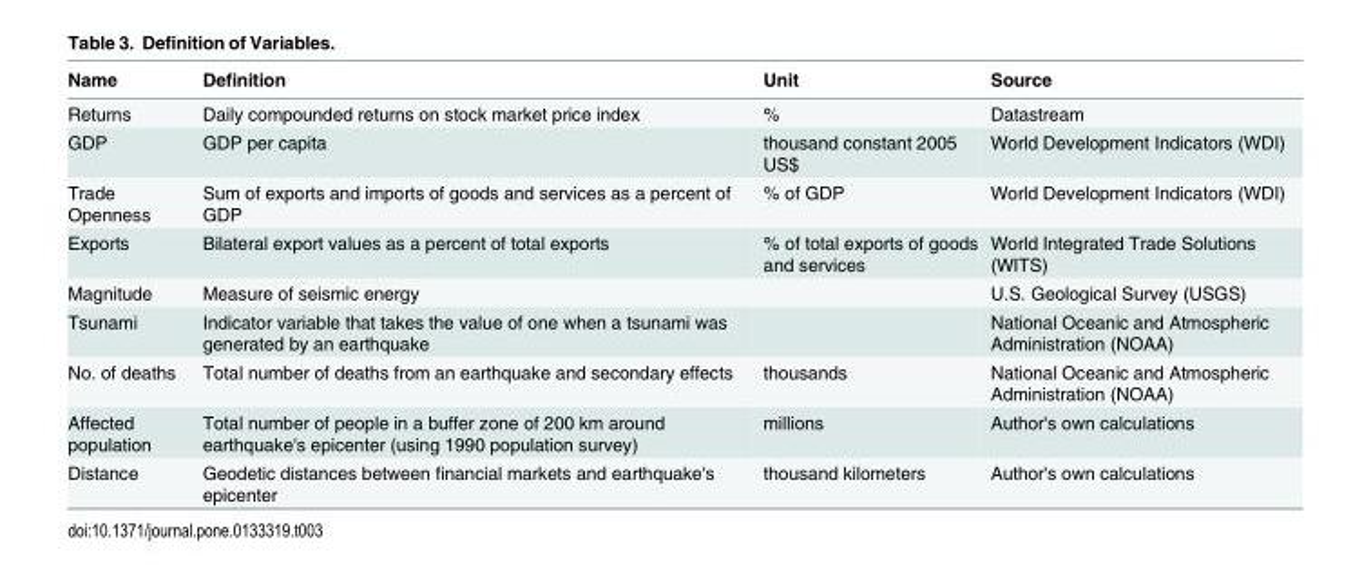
<table><thead><tr><td>Name</td><td>Definition</td><td>Unit</td><td>Source</td></tr></thead><tbody><tr><td>Returns</td><td>Daily compounded returns on stock market price index</td><td>%</td><td>Datastream</td></tr><tr><td>GDP</td><td>GDP per capita</td><td>thousand constant 2005 US$</td><td>World Development Indicators (WDI)</td></tr><tr><td>Trade Openness</td><td>Sum of exports and imports of goods and services as a percent of GDP</td><td>% of GDP</td><td>World Development Indicators (WDI)</td></tr><tr><td>Exports</td><td>Bilateral export values as a percent of total exports</td><td>% of total exports of goods and services</td><td>World Integrated Trade Solutions (WITS)</td></tr><tr><td>Magnitude</td><td>Measure of seismic energy</td><td></td><td>U.S. Geological Survey (USGS)</td></tr><tr><td>Tsunami</td><td>Indicator variable that takes the value of one when a tsunami was generated by an earthquake</td><td></td><td>National Oceanic and Atmospheric Administration (NOAA)</td></tr><tr><td>No. of deaths</td><td>Total number of deaths from an earthquake and secondary effects</td><td>thousands</td><td>National Oceanic and Atmospheric Administration (NOAA)</td></tr><tr><td>Affected population</td><td>Total number of people in a buffer zone of 200 km around earthquake&#x27;s epicenter (using 1990 population survey)</td><td>millions</td><td>Author&#x27;s own calculations</td></tr><tr><td>Distance</td><td>Geodetic distances between financial markets and earthquake&#x27;s epicenter</td><td>thousand kilometers</td><td>Author&#x27;s own calculations</td></tr></tbody></table>